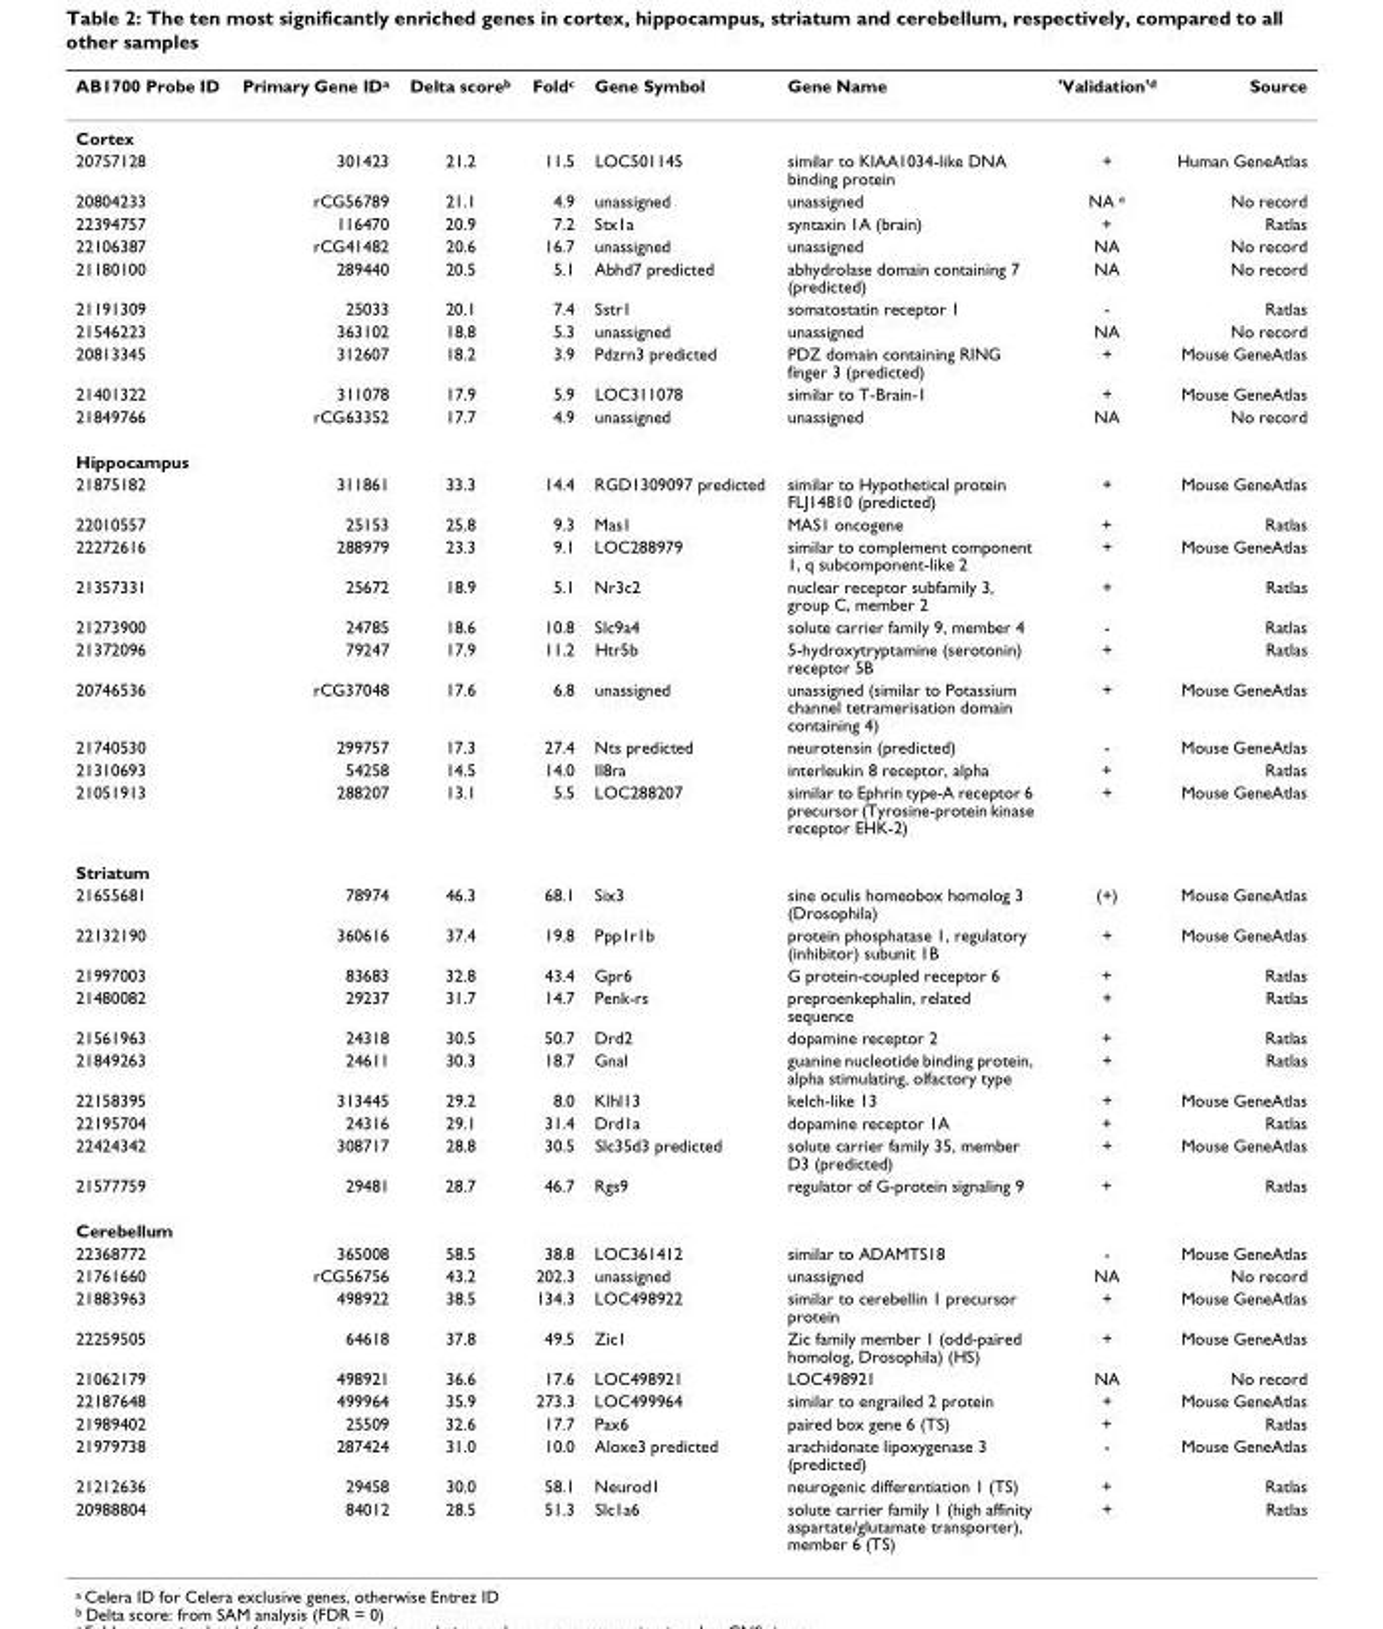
<table><thead><tr><td>AB1700 Probe ID</td><td>Primary Gene IDa</td><td>Delta scoreb</td><td>Foldc</td><td>Gene Symbol</td><td>Gene Name</td><td>&#x27;Validation&#x27;d</td><td>Source</td></tr></thead><tbody><tr><td colspan="8">Cortex</td></tr><tr><td>20757128</td><td>301423</td><td>21.2</td><td>11.5</td><td>LOC501145</td><td>similar to KIAA1034-like DNA binding protein</td><td>+</td><td>Human GeneAtlas</td></tr><tr><td>20804233</td><td>rCG56789</td><td>21.1</td><td>4.9</td><td>unassigned</td><td>unassigned</td><td>NA e</td><td>No record</td></tr><tr><td>22394757</td><td>116470</td><td>20.9</td><td>7.2</td><td>Stx1a</td><td>syntaxin 1A (brain)</td><td>+</td><td>Ratlas</td></tr><tr><td>22106387</td><td>rCG41482</td><td>20.6</td><td>16.7</td><td>unassigned</td><td>unassigned</td><td>NA</td><td>No record</td></tr><tr><td>21180100</td><td>289440</td><td>20.5</td><td>5.1</td><td>Abhd7 predicted</td><td>abhydrolase domain containing 7 (predicted)</td><td>NA</td><td>No record</td></tr><tr><td>21191309</td><td>25033</td><td>20.1</td><td>7.4</td><td>Sstr1</td><td>somatostatin receptor 1</td><td>-</td><td>Ratlas</td></tr><tr><td>21546223</td><td>363102</td><td>18.8</td><td>5.3</td><td>unassigned</td><td>unassigned</td><td>NA</td><td>No record</td></tr><tr><td>20813345</td><td>312607</td><td>18.2</td><td>3.9</td><td>Pdzrn3 predicted</td><td>PDZ domain containing RING finger 3 (predicted)</td><td>+</td><td>Mouse GeneAtlas</td></tr><tr><td>21401322</td><td>311078</td><td>17.9</td><td>5.9</td><td>LOC311078</td><td>similar to T-Brain-1</td><td>+</td><td>Mouse GeneAtlas</td></tr><tr><td>21849766</td><td>rCG63352</td><td>17.7</td><td>4.9</td><td>unassigned</td><td>unassigned</td><td>NA</td><td>No record</td></tr><tr><td colspan="8">Hippocampus</td></tr><tr><td>21875182</td><td>311861</td><td>33.3</td><td>14.4</td><td>RGD1309097 predicted</td><td>similar to Hypothetical protein FLJ14810 (predicted)</td><td>+</td><td>Mouse GeneAtlas</td></tr><tr><td>22010557</td><td>25153</td><td>25.8</td><td>9.3</td><td>Mas1</td><td>MAS1 oncogene</td><td>+</td><td>Ratlas</td></tr><tr><td>22272616</td><td>288979</td><td>23.3</td><td>9.1</td><td>LOC288979</td><td>similar to complement component 1, q subcomponent-like 2</td><td>+</td><td>Mouse GeneAtlas</td></tr><tr><td>21357331</td><td>25672</td><td>18.9</td><td>5.1</td><td>Nr3c2</td><td>nuclear receptor subfamily 3, group C, member 2</td><td>+</td><td>Ratlas</td></tr><tr><td>21273900</td><td>24785</td><td>18.6</td><td>10.8</td><td>Slc9a4</td><td>solute carrier family 9, member 4</td><td>-</td><td>Ratlas</td></tr><tr><td>21372096</td><td>79247</td><td>17.9</td><td>11.2</td><td>Htr5b</td><td>5-hydroxytryptamine (serotonin) receptor 5B</td><td>+</td><td>Ratlas</td></tr><tr><td>20746536</td><td>rCG37048</td><td>17.6</td><td>6.8</td><td>unassigned</td><td>unassigned (similar to Potassium channel tetramerisation domain containing 4)</td><td>+</td><td>Mouse GeneAtlas</td></tr><tr><td>21740530</td><td>299757</td><td>17.3</td><td>27.4</td><td>Nts predicted</td><td>neurotensin (predicted)</td><td>-</td><td>Mouse GeneAtlas</td></tr><tr><td>21310693</td><td>54258</td><td>14.5</td><td>14.0</td><td>Il8ra</td><td>interleukin 8 receptor, alpha</td><td>+</td><td>Ratlas</td></tr><tr><td>21051913</td><td>288207</td><td>13.1</td><td>5.5</td><td>LOC288207</td><td>similar to Ephrin type-A receptor 6 precursor (Tyrosine-protein kinase receptor EHK-2)</td><td>+</td><td>Mouse GeneAtlas</td></tr><tr><td colspan="8">Striatum</td></tr><tr><td>21655681</td><td>78974</td><td>46.3</td><td>68.1</td><td>Six3</td><td>sine oculis homeobox homolog 3 (Drosophila)</td><td>(+)</td><td>Mouse GeneAtlas</td></tr><tr><td>22132190</td><td>360616</td><td>37.4</td><td>19.8</td><td>Ppp1r1b</td><td>protein phosphatase 1, regulatory (inhibitor) subunit 1B</td><td>+</td><td>Mouse GeneAtlas</td></tr><tr><td>21997003</td><td>83683</td><td>32.8</td><td>43.4</td><td>Gpr6</td><td>G protein-coupled receptor 6</td><td>+</td><td>Ratlas</td></tr><tr><td>21480082</td><td>29237</td><td>31.7</td><td>14.7</td><td>Penk-rs</td><td>preproenkephalin, related sequence</td><td>+</td><td>Ratlas</td></tr><tr><td>21561963</td><td>24318</td><td>30.5</td><td>50.7</td><td>Drd2</td><td>dopamine receptor 2</td><td>+</td><td>Ratlas</td></tr><tr><td>21849263</td><td>24611</td><td>30.3</td><td>18.7</td><td>Gnal</td><td>guanine nucleotide binding protein, alpha stimulating, olfactory type</td><td>+</td><td>Ratlas</td></tr><tr><td>22158395</td><td>313445</td><td>29.2</td><td>8.0</td><td>Klhl13</td><td>kelch-like 13</td><td>+</td><td>Mouse GeneAtlas</td></tr><tr><td>22195704</td><td>24316</td><td>29.1</td><td>31.4</td><td>Drd1a</td><td>dopamine receptor 1A</td><td>+</td><td>Ratlas</td></tr><tr><td>22424342</td><td>308717</td><td>28.8</td><td>30.5</td><td>Slc35d3 predicted</td><td>solute carrier family 35, member D3 (predicted)</td><td>+</td><td>Mouse GeneAtlas</td></tr><tr><td>21577759</td><td>29481</td><td>28.7</td><td>46.7</td><td>Rgs9</td><td>regulator of G-protein signaling 9</td><td>+</td><td>Ratlas</td></tr><tr><td colspan="8">Cerebellum</td></tr><tr><td>22368772</td><td>365008</td><td>58.5</td><td>38.8</td><td>LOC361412</td><td>similar to ADAMTS18</td><td>-</td><td>Mouse GeneAtlas</td></tr><tr><td>21761660</td><td>rCG56756</td><td>43.2</td><td>202.3</td><td>unassigned</td><td>unassigned</td><td>NA</td><td>No record</td></tr><tr><td>21883963</td><td>498922</td><td>38.5</td><td>134.3</td><td>LOC498922</td><td>similar to cerebellin 1 precursor protein</td><td>+</td><td>Mouse GeneAtlas</td></tr><tr><td>22259505</td><td>64618</td><td>37.8</td><td>49.5</td><td>Zic1</td><td>Zic family member 1 (odd-paired homolog, Drosophila) (HS)</td><td>+</td><td>Mouse GeneAtlas</td></tr><tr><td>21062179</td><td>498921</td><td>36.6</td><td>17.6</td><td>LOC498921</td><td>LOC498921</td><td>NA</td><td>No record</td></tr><tr><td>22187648</td><td>499964</td><td>35.9</td><td>273.3</td><td>LOC499964</td><td>similar to engrailed 2 protein</td><td>+</td><td>Mouse GeneAtlas</td></tr><tr><td>21989402</td><td>25509</td><td>32.6</td><td>17.7</td><td>Pax6</td><td>paired box gene 6 (TS)</td><td>+</td><td>Ratlas</td></tr><tr><td>21979738</td><td>287424</td><td>31.0</td><td>10.0</td><td>Aloxe3 predicted</td><td>arachidonate lipoxygenase 3 (predicted)</td><td>-</td><td>Mouse GeneAtlas</td></tr><tr><td>21212636</td><td>29458</td><td>30.0</td><td>58.1</td><td>Neurod1</td><td>neurogenic differentiation 1 (TS)</td><td>+</td><td>Ratlas</td></tr><tr><td>20988804</td><td>84012</td><td>28.5</td><td>51.3</td><td>Slc1a6</td><td>solute carrier family 1 (high affinity aspartate/glutamate transporter), member 6 (TS)</td><td>+</td><td>Ratlas</td></tr></tbody></table>